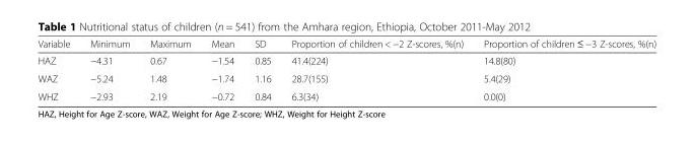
<table><thead><tr><td>Variable</td><td>Minimum</td><td>Maximum</td><td>Mean</td><td>SD</td><td>Proportion of children &lt; −2 Z-scores, %(n)</td><td>Proportion of children ≤ −3 Z-scores, %(n)</td></tr></thead><tbody><tr><td>HAZ</td><td>−4.31</td><td>0.67</td><td>−1.54</td><td>0.85</td><td>41.4(224)</td><td>14.8(80)</td></tr><tr><td>WAZ</td><td>−5.24</td><td>1.48</td><td>−1.74</td><td>1.16</td><td>28.7(155)</td><td>5.4(29)</td></tr><tr><td>WHZ</td><td>−2.93</td><td>2.19</td><td>−0.72</td><td>0.84</td><td>6.3(34)</td><td>0.0(0)</td></tr></tbody></table>